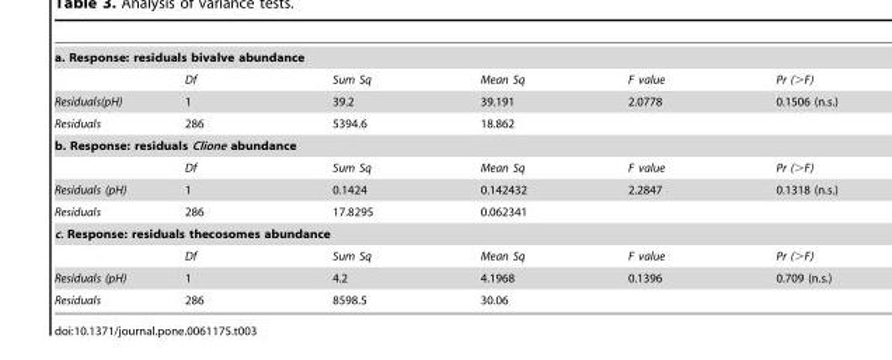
<table><tbody><tr><td colspan="6">a. Response: residuals bivalve abundance</td></tr><tr><td></td><td>Df</td><td>Sum Sq</td><td>Mean Sq</td><td>F value</td><td>Pr (&gt;F)</td></tr><tr><td>Residuals(pH)</td><td>1</td><td>39.2</td><td>39.191</td><td>2.0778</td><td>0.1506 (n.s.)</td></tr><tr><td>Residuals</td><td>286</td><td>5394.6</td><td>18.862</td><td></td><td></td></tr><tr><td colspan="6">b. Response: residuals Clione abundance</td></tr><tr><td></td><td>Df</td><td>Sum Sq</td><td>Mean Sq</td><td>F value</td><td>Pr (&gt;F)</td></tr><tr><td>Residuals (pH)</td><td>1</td><td>0.1424</td><td>0.142432</td><td>2.2847</td><td>0.1318 (n.s.)</td></tr><tr><td>Residuals</td><td>286</td><td>17.8295</td><td>0.062341</td><td></td><td></td></tr><tr><td colspan="6">c. Response: residuals thecosomes abundance</td></tr><tr><td></td><td>Df</td><td>Sum Sq</td><td>Mean Sq</td><td>F value</td><td>Pr (&gt;F)</td></tr><tr><td>Residuals (pH)</td><td>1</td><td>4.2</td><td>4.1968</td><td>0.1396</td><td>0.709 (n.s.)</td></tr><tr><td>Residuals</td><td>286</td><td>8598.5</td><td>30.06</td><td></td><td></td></tr></tbody></table>